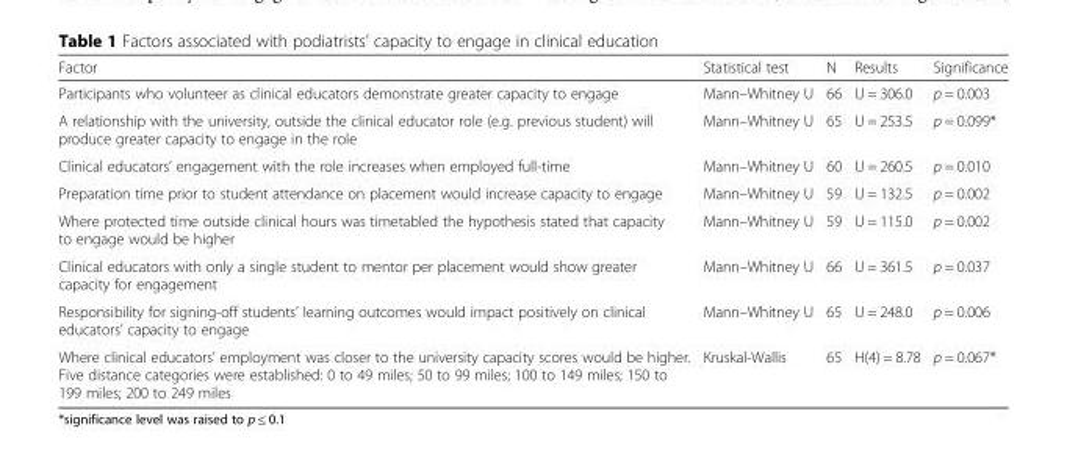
<table><thead><tr><td>Factor</td><td>Statistical test</td><td>N</td><td>Results</td><td>Significance</td></tr></thead><tbody><tr><td>Participants who volunteer as clinical educators demonstrate greater capacity to engage</td><td>Mann–Whitney U</td><td>66</td><td>U = 306.0</td><td>p = 0.003</td></tr><tr><td>A relationship with the university, outside the clinical educator role (e.g. previous student) will produce greater capacity to engage in the role</td><td>Mann–Whitney U</td><td>65</td><td>U = 253.5</td><td>p = 0.099*</td></tr><tr><td>Clinical educators’ engagement with the role increases when employed full-time</td><td>Mann–Whitney U</td><td>60</td><td>U = 260.5</td><td>p = 0.010</td></tr><tr><td>Preparation time prior to student attendance on placement would increase capacity to engage</td><td>Mann–Whitney U</td><td>59</td><td>U = 132.5</td><td>p = 0.002</td></tr><tr><td>Where protected time outside clinical hours was timetabled the hypothesis stated that capacity to engage would be higher</td><td>Mann–Whitney U</td><td>59</td><td>U = 115.0</td><td>p = 0.002</td></tr><tr><td>Clinical educators with only a single student to mentor per placement would show greater capacity for engagement</td><td>Mann–Whitney U</td><td>66</td><td>U = 361.5</td><td>p = 0.037</td></tr><tr><td>Responsibility for signing-off students’ learning outcomes would impact positively on clinical educators’ capacity to engage</td><td>Mann–Whitney U</td><td>65</td><td>U = 248.0</td><td>p = 0.006</td></tr><tr><td>Where clinical educators’ employment was closer to the university capacity scores would be higher. Five distance categories were established: 0 to 49 miles; 50 to 99 miles; 100 to 149 miles; 150 to 199 miles; 200 to 249 miles</td><td>Kruskal-Wallis</td><td>65</td><td>H(4) = 8.78</td><td>p = 0.067*</td></tr></tbody></table>